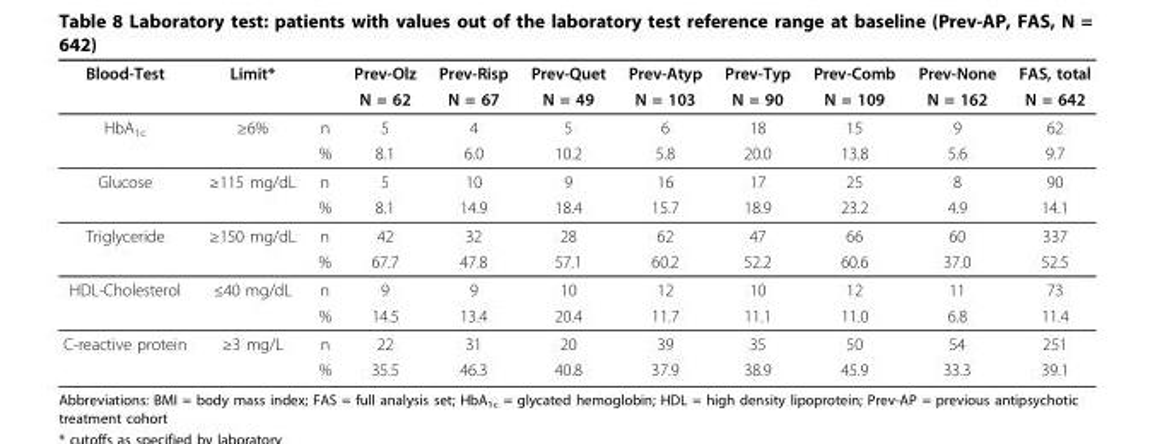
<table><thead><tr><td rowspan="2">Blood-Test</td><td rowspan="2">Limit*</td><td rowspan="2"></td><td rowspan="2">Prev-Olz N = 62</td><td rowspan="2">Prev-Risp N = 67</td><td rowspan="2">Prev-Quet N = 49</td><td rowspan="2">Prev-Atyp N = 103</td><td rowspan="2">Prev-Typ N = 90</td><td rowspan="2">Prev-Comb N = 109</td><td rowspan="2">Prev-None N = 162</td><td rowspan="2">FAS, total N = 642</td></tr><tr></tr></thead><tbody><tr><td rowspan="2">HbA1c</td><td>≥6%</td><td>n</td><td>5</td><td>4</td><td>5</td><td>6</td><td>18</td><td>15</td><td>9</td><td>62</td></tr><tr><td></td><td>%</td><td>8.1</td><td>6.0</td><td>10.2</td><td>5.8</td><td>20.0</td><td>13.8</td><td>5.6</td><td>9.7</td></tr><tr><td rowspan="2">Glucose</td><td>≥115 mg/dL</td><td>n</td><td>5</td><td>10</td><td>9</td><td>16</td><td>17</td><td>25</td><td>8</td><td>90</td></tr><tr><td></td><td>%</td><td>8.1</td><td>14.9</td><td>18.4</td><td>15.7</td><td>18.9</td><td>23.2</td><td>4.9</td><td>14.1</td></tr><tr><td rowspan="2">Triglyceride</td><td>≥150 mg/dL</td><td>n</td><td>42</td><td>32</td><td>28</td><td>62</td><td>47</td><td>66</td><td>60</td><td>337</td></tr><tr><td></td><td>%</td><td>67.7</td><td>47.8</td><td>57.1</td><td>60.2</td><td>52.2</td><td>60.6</td><td>37.0</td><td>52.5</td></tr><tr><td rowspan="2">HDL-Cholesterol</td><td>≤40 mg/dL</td><td>n</td><td>9</td><td>9</td><td>10</td><td>12</td><td>10</td><td>12</td><td>11</td><td>73</td></tr><tr><td></td><td>%</td><td>14.5</td><td>13.4</td><td>20.4</td><td>11.7</td><td>11.1</td><td>11.0</td><td>6.8</td><td>11.4</td></tr><tr><td rowspan="2">C-reactive protein</td><td>≥3 mg/L</td><td>n</td><td>22</td><td>31</td><td>20</td><td>39</td><td>35</td><td>50</td><td>54</td><td>251</td></tr><tr><td></td><td>%</td><td>35.5</td><td>46.3</td><td>40.8</td><td>37.9</td><td>38.9</td><td>45.9</td><td>33.3</td><td>39.1</td></tr></tbody></table>